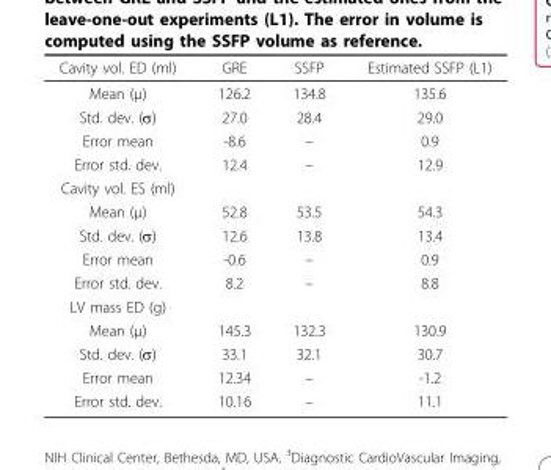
<table><thead><tr><td>Cavity vol. ED (ml)</td><td>GRE</td><td>SSFP</td><td>Estimated SSFP (L1)</td></tr></thead><tbody><tr><td>Mean (μ)</td><td>126.2</td><td>134.8</td><td>135.6</td></tr><tr><td>Std. dev. (σ)</td><td>27.0</td><td>28.4</td><td>29.0</td></tr><tr><td>Error mean</td><td>-8.6</td><td>–</td><td>0.9</td></tr><tr><td>Error std. dev.</td><td>12.4</td><td>–</td><td>12.9</td></tr><tr><td colspan="4">Cavity vol. ES (ml)</td></tr><tr><td>Mean (μ)</td><td>52.8</td><td>53.5</td><td>54.3</td></tr><tr><td>Std. dev. (σ)</td><td>12.6</td><td>13.8</td><td>13.4</td></tr><tr><td>Error mean</td><td>-0.6</td><td>–</td><td>0.9</td></tr><tr><td>Error std. dev.</td><td>8.2</td><td>–</td><td>8.8</td></tr><tr><td colspan="4">LV mass ED (g)</td></tr><tr><td>Mean (μ)</td><td>145.3</td><td>132.3</td><td>130.9</td></tr><tr><td>Std. dev. (σ)</td><td>33.1</td><td>32.1</td><td>30.7</td></tr><tr><td>Error mean</td><td>12.34</td><td>–</td><td>-1.2</td></tr><tr><td>Error std. dev.</td><td>10.16</td><td>–</td><td>11.1</td></tr></tbody></table>